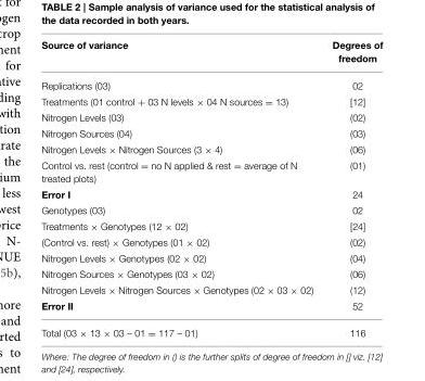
<table><thead><tr><td>Source of variance</td><td>Degrees of freedom</td></tr></thead><tbody><tr><td>Replications (03)</td><td>02</td></tr><tr><td>Treatments (01 control + 03 N levels × 04 N sources = 13)</td><td>[12]</td></tr><tr><td>Nitrogen Levels (03)</td><td>(02)</td></tr><tr><td>Nitrogen Sources (04)</td><td>(03)</td></tr><tr><td>Nitrogen Levels × Nitrogen Sources (3 × 4)</td><td>(06)</td></tr><tr><td>Control vs. rest (control = no N applied &amp; rest = average of N treated plots)</td><td>(01)</td></tr><tr><td>Error I</td><td>24</td></tr><tr><td>Genotypes (03)</td><td>02</td></tr><tr><td>Treatments × Genotypes (12 × 02)</td><td>[24]</td></tr><tr><td>(Control vs. rest) × Genotypes (01 × 02)</td><td>(02)</td></tr><tr><td>Nitrogen Levels × Genotypes (02 × 02)</td><td>(04)</td></tr><tr><td>Nitrogen Sources × Genotypes (03 × 02)</td><td>(06)</td></tr><tr><td>Nitrogen Levels × Nitrogen Sources × Genotypes (02 × 03 × 02)</td><td>(12)</td></tr><tr><td>Error II</td><td>52</td></tr><tr><td>Total (03 × 13 × 03 – 01 = 117 – 01)</td><td>116</td></tr></tbody></table>